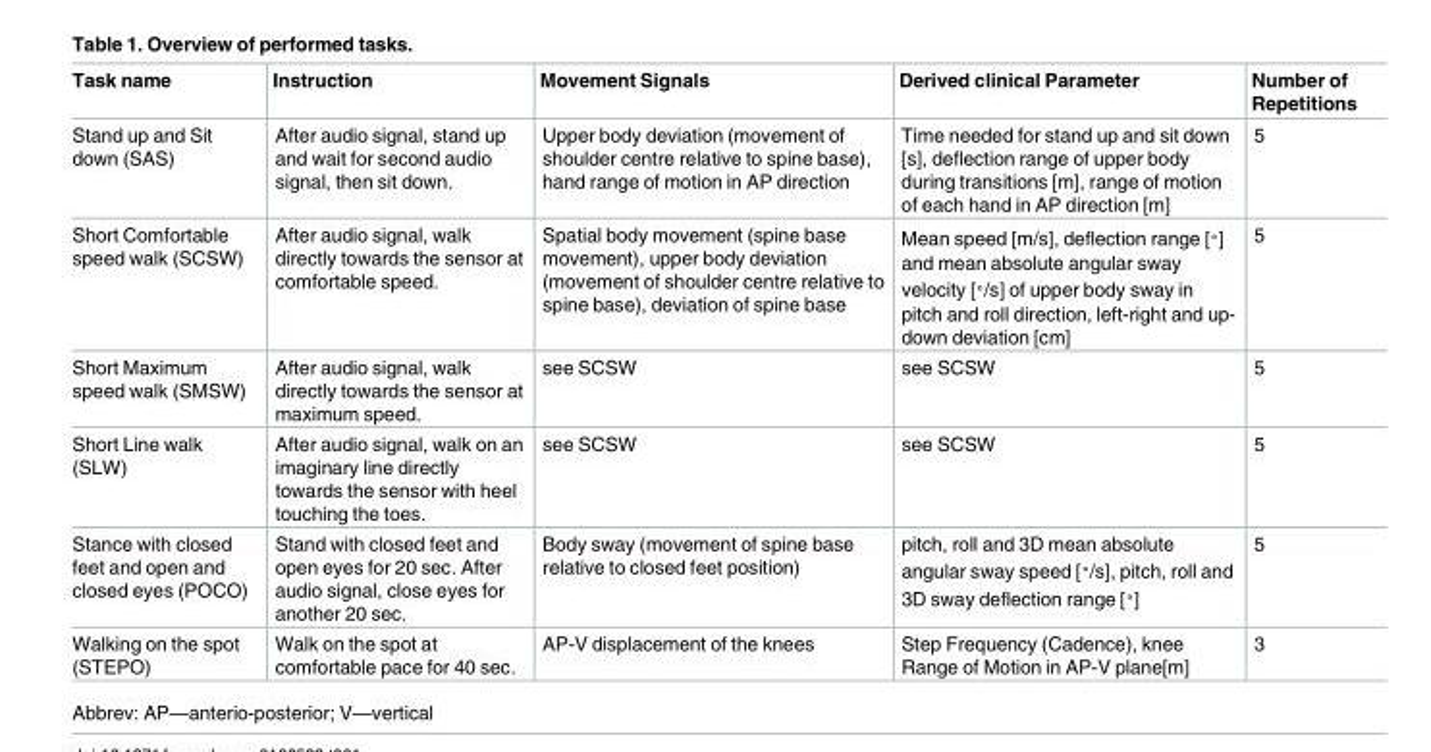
<table><thead><tr><td>Task name</td><td>Instruction</td><td>Movement Signals</td><td>Derived clinical Parameter</td><td>Number of Repetitions</td></tr></thead><tbody><tr><td>Stand up and Sit down (SAS)</td><td>After audio signal, stand up and wait for second audio signal, then sit down.</td><td>Upper body deviation (movement of shoulder centre relative to spine base), hand range of motion in AP direction</td><td>Time needed for stand up and sit down [s], deflection range of upper body during transitions [m], range of motion of each hand in AP direction [m]</td><td>5</td></tr><tr><td>Short Comfortable speed walk (SCSW)</td><td>After audio signal, walk directly towards the sensor at comfortable speed.</td><td>Spatial body movement (spine base movement), upper body deviation (movement of shoulder centre relative to spine base), deviation of spine base</td><td>Mean speed [m/s], deflection range [˚] and mean absolute angular sway velocity [˚/s] of upper body sway in pitch and roll direction, left-right and up- down deviation [cm]</td><td>5</td></tr><tr><td>Short Maximum speed walk (SMSW)</td><td>After audio signal, walk directly towards the sensor at maximum speed.</td><td>see SCSW</td><td>see SCSW</td><td>5</td></tr><tr><td>Short Line walk (SLW)</td><td>After audio signal, walk on an imaginary line directly towards the sensor with heel touching the toes.</td><td>see SCSW</td><td>see SCSW</td><td>5</td></tr><tr><td>Stance with closed feet and open and closed eyes (POCO)</td><td>Stand with closed feet and open eyes for 20 sec. After audio signal, close eyes for another 20 sec.</td><td>Body sway (movement of spine base relative to closed feet position)</td><td>pitch, roll and 3D mean absolute angular sway speed [˚/s], pitch, roll and 3D sway deflection range [˚]</td><td>5</td></tr><tr><td>Walking on the spot (STEPO)</td><td>Walk on the spot at comfortable pace for 40 sec.</td><td>AP-V displacement of the knees</td><td>Step Frequency (Cadence), knee Range of Motion in AP-V plane[m]</td><td>3</td></tr></tbody></table>